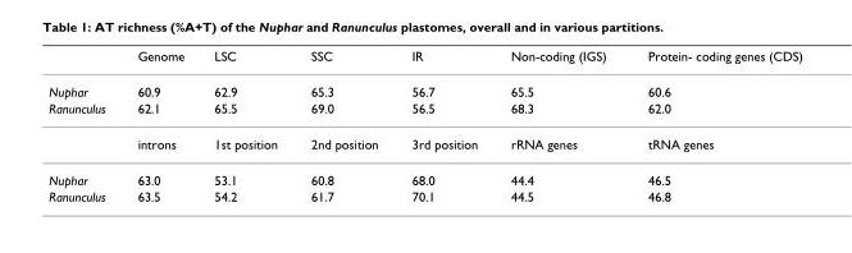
<table><thead><tr><td></td><td>Genome</td><td>LSC</td><td>SSC</td><td>IR</td><td>Non-coding (IGS)</td><td>Protein- coding genes (CDS)</td></tr></thead><tbody><tr><td>Nuphar</td><td>60.9</td><td>62.9</td><td>65.3</td><td>56.7</td><td>65.5</td><td>60.6</td></tr><tr><td rowspan="2">Ranunculus</td><td>62.1</td><td>65.5</td><td>69.0</td><td>56.5</td><td>68.3</td><td>62.0</td></tr><tr><td>introns</td><td>1st position</td><td>2nd position</td><td>3rd position</td><td>rRNA genes</td><td>tRNA genes</td></tr><tr><td>Nuphar</td><td>63.0</td><td>53.1</td><td>60.8</td><td>68.0</td><td>44.4</td><td>46.5</td></tr><tr><td>Ranunculus</td><td>63.5</td><td>54.2</td><td>61.7</td><td>70.1</td><td>44.5</td><td>46.8</td></tr></tbody></table>